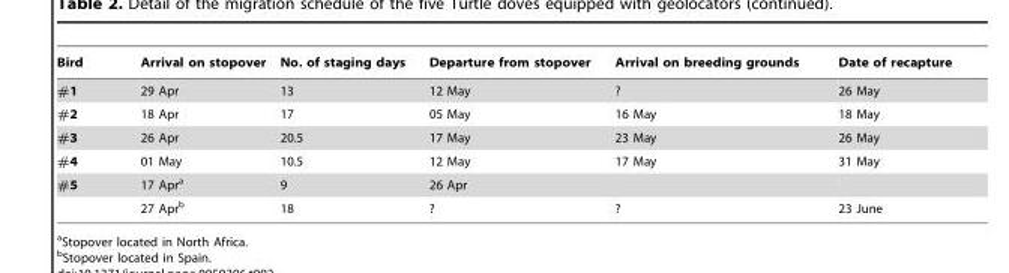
<table><thead><tr><td>Bird</td><td>Arrival on stopover</td><td>No. of staging days</td><td>Departure from stopover</td><td>Arrival on breeding grounds</td><td>Date of recapture</td></tr></thead><tbody><tr><td>#1</td><td>29 Apr</td><td>13</td><td>12 May</td><td>?</td><td>26 May</td></tr><tr><td>#2</td><td>18 Apr</td><td>17</td><td>05 May</td><td>16 May</td><td>18 May</td></tr><tr><td>#3</td><td>26 Apr</td><td>20.5</td><td>17 May</td><td>23 May</td><td>26 May</td></tr><tr><td>#4</td><td>01 May</td><td>10.5</td><td>12 May</td><td>17 May</td><td>31 May</td></tr><tr><td rowspan="2">#5</td><td>17 Apr<sup>a</sup></td><td>9</td><td>26 Apr</td><td></td><td></td></tr><tr><td>27 Apr<sup>b</sup></td><td>18</td><td>?</td><td>?</td><td>23 June</td></tr></tbody></table>